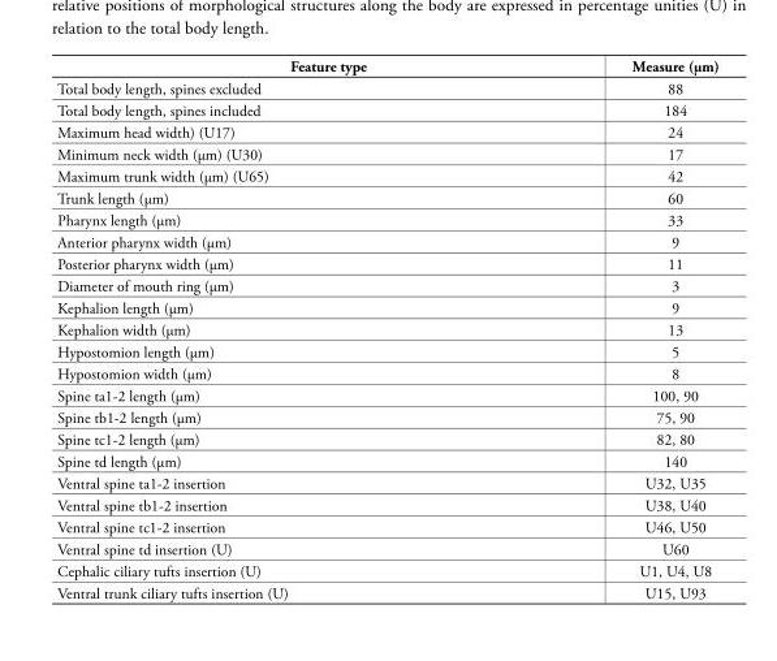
<table><thead><tr><td>Feature type</td><td>Measure (μm)</td></tr></thead><tbody><tr><td>Total body length, spines excluded</td><td>88</td></tr><tr><td>Total body length, spines included</td><td>184</td></tr><tr><td>Maximum head width) (U17)</td><td>24</td></tr><tr><td>Minimum neck width (μm) (U30)</td><td>17</td></tr><tr><td>Maximum trunk width (μm) (U65)</td><td>42</td></tr><tr><td>Trunk length (μm)</td><td>60</td></tr><tr><td>Pharynx length (μm)</td><td>33</td></tr><tr><td>Anterior pharynx width (μm)</td><td>9</td></tr><tr><td>Posterior pharynx width (μm)</td><td>11</td></tr><tr><td>Diameter of mouth ring (μm)</td><td>3</td></tr><tr><td>Kephalion length (μm)</td><td>9</td></tr><tr><td>Kephalion width (μm)</td><td>13</td></tr><tr><td>Hypostomion length (μm)</td><td>5</td></tr><tr><td>Hypostomion width (μm)</td><td>8</td></tr><tr><td>Spine ta1-2 length (μm)</td><td>100, 90</td></tr><tr><td>Spine tb1-2 length (μm)</td><td>75, 90</td></tr><tr><td>Spine tc1-2 length (μm)</td><td>82, 80</td></tr><tr><td>Spine td length (μm)</td><td>140</td></tr><tr><td>Ventral spine ta1-2 insertion</td><td>U32, U35</td></tr><tr><td>Ventral spine tb1-2 insertion</td><td>U38, U40</td></tr><tr><td>Ventral spine tc1-2 insertion</td><td>U46, U50</td></tr><tr><td>Ventral spine td insertion (U)</td><td>U60</td></tr><tr><td>Cephalic ciliary tufts insertion (U)</td><td>U1, U4, U8</td></tr><tr><td>Ventral trunk ciliary tufts insertion (U)</td><td>U15, U93</td></tr></tbody></table>